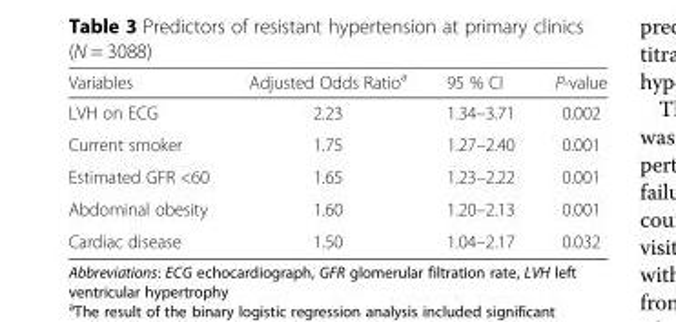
<table><thead><tr><td>Variables</td><td>Adjusted Odds Ratio<sup>a</sup></td><td>95 % CI</td><td>P-value</td></tr></thead><tbody><tr><td>LVH on ECG</td><td>2.23</td><td>1.34–3.71</td><td>0.002</td></tr><tr><td>Current smoker</td><td>1.75</td><td>1.27–2.40</td><td>0.001</td></tr><tr><td>Estimated GFR &lt;60</td><td>1.65</td><td>1.23–2.22</td><td>0.001</td></tr><tr><td>Abdominal obesity</td><td>1.60</td><td>1.20–2.13</td><td>0.001</td></tr><tr><td>Cardiac disease</td><td>1.50</td><td>1.04–2.17</td><td>0.032</td></tr></tbody></table>